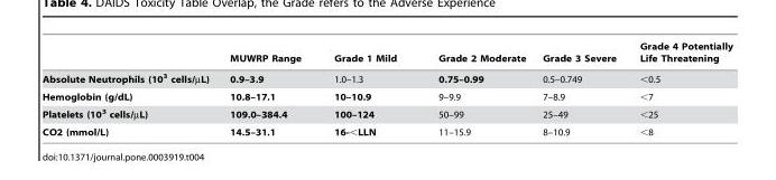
<table><thead><tr><td></td><td>MUWRP Range</td><td>Grade 1 Mild</td><td>Grade 2 Moderate</td><td>Grade 3 Severe</td><td>Grade 4 Potentially Life Threatening</td></tr></thead><tbody><tr><td>Absolute Neutrophils (10<sup>3</sup> cells/µL)</td><td>0.9–3.9</td><td>1.0–1.3</td><td>0.75–0.99</td><td>0.5–0.749</td><td>&lt;0.5</td></tr><tr><td>Hemoglobin (g/dL)</td><td>10.8–17.1</td><td>10–10.9</td><td>9–9.9</td><td>7–8.9</td><td>&lt;7</td></tr><tr><td>Platelets (10<sup>3</sup> cells/µL)</td><td>109.0–384.4</td><td>100–124</td><td>50–99</td><td>25–49</td><td>&lt;25</td></tr><tr><td>CO2 (mmol/L)</td><td>14.5–31.1</td><td>16-&lt;LLN</td><td>11–15.9</td><td>8–10.9</td><td>&lt;8</td></tr></tbody></table>